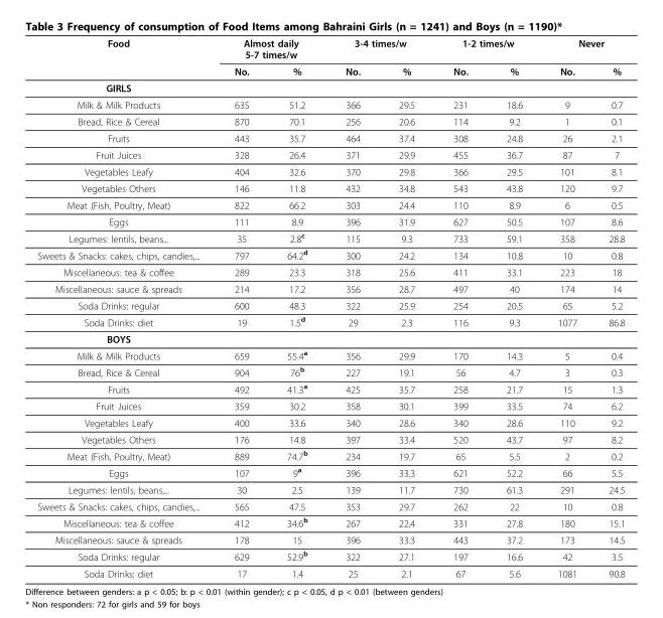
<table><thead><tr><td rowspan="2">Food</td><td colspan="2">Almost daily 5-7 times/w</td><td colspan="2">3-4 times/w</td><td colspan="2">1-2 times/w</td><td colspan="2">Never</td></tr><tr><td>No.</td><td>%</td><td>No.</td><td>%</td><td>No.</td><td>%</td><td>No.</td><td>%</td></tr></thead><tbody><tr><td colspan="9">GIRLS</td></tr><tr><td>Milk &amp; Milk Products</td><td>635</td><td>51.2</td><td>366</td><td>29.5</td><td>231</td><td>18.6</td><td>9</td><td>0.7</td></tr><tr><td>Bread, Rice &amp; Cereal</td><td>870</td><td>70.1</td><td>256</td><td>20.6</td><td>114</td><td>9.2</td><td>1</td><td>0.1</td></tr><tr><td>Fruits</td><td>443</td><td>35.7</td><td>464</td><td>37.4</td><td>308</td><td>24.8</td><td>26</td><td>2.1</td></tr><tr><td>Fruit Juices</td><td>328</td><td>26.4</td><td>371</td><td>29.9</td><td>455</td><td>36.7</td><td>87</td><td>7</td></tr><tr><td>Vegetables Leafy</td><td>404</td><td>32.6</td><td>370</td><td>29.8</td><td>366</td><td>29.5</td><td>101</td><td>8.1</td></tr><tr><td>Vegetables Others</td><td>146</td><td>11.8</td><td>432</td><td>34.8</td><td>543</td><td>43.8</td><td>120</td><td>9.7</td></tr><tr><td>Meat (Fish, Poultry, Meat)</td><td>822</td><td>66.2</td><td>303</td><td>24.4</td><td>110</td><td>8.9</td><td>6</td><td>0.5</td></tr><tr><td>Eggs</td><td>111</td><td>8.9</td><td>396</td><td>31.9</td><td>627</td><td>50.5</td><td>107</td><td>8.6</td></tr><tr><td>Legumes: lentils, beans...</td><td>35</td><td>2.8<sup>c</sup></td><td>115</td><td>9.3</td><td>733</td><td>59.1</td><td>358</td><td>28.8</td></tr><tr><td>Sweets &amp; Snacks: cakes, chips, candies,...</td><td>797</td><td>64.2<sup>d</sup></td><td>300</td><td>24.2</td><td>134</td><td>10.8</td><td>10</td><td>0.8</td></tr><tr><td>Miscellaneous: tea &amp; coffee</td><td>289</td><td>23.3</td><td>318</td><td>25.6</td><td>411</td><td>33.1</td><td>223</td><td>18</td></tr><tr><td>Miscellaneous: sauce &amp; spreads</td><td>214</td><td>17.2</td><td>356</td><td>28.7</td><td>497</td><td>40</td><td>174</td><td>14</td></tr><tr><td>Soda Drinks: regular</td><td>600</td><td>48.3</td><td>322</td><td>25.9</td><td>254</td><td>20.5</td><td>65</td><td>5.2</td></tr><tr><td>Soda Drinks: diet</td><td>19</td><td>1.5<sup>d</sup></td><td>29</td><td>2.3</td><td>116</td><td>9.3</td><td>1077</td><td>86.8</td></tr><tr><td colspan="9">BOYS</td></tr><tr><td>Milk &amp; Milk Products</td><td>659</td><td>55.4<sup>a</sup></td><td>356</td><td>29.9</td><td>170</td><td>14.3</td><td>5</td><td>0.4</td></tr><tr><td>Bread, Rice &amp; Cereal</td><td>904</td><td>76<sup>b</sup></td><td>227</td><td>19.1</td><td>56</td><td>4.7</td><td>3</td><td>0.3</td></tr><tr><td>Fruits</td><td>492</td><td>41.3<sup>a</sup></td><td>425</td><td>35.7</td><td>258</td><td>21.7</td><td>15</td><td>1.3</td></tr><tr><td>Fruit Juices</td><td>359</td><td>30.2</td><td>358</td><td>30.1</td><td>399</td><td>33.5</td><td>74</td><td>6.2</td></tr><tr><td>Vegetables Leafy</td><td>400</td><td>33.6</td><td>340</td><td>28.6</td><td>340</td><td>28.6</td><td>110</td><td>9.2</td></tr><tr><td>Vegetables Others</td><td>176</td><td>14.8</td><td>397</td><td>33.4</td><td>520</td><td>43.7</td><td>97</td><td>8.2</td></tr><tr><td>Meat (Fish, Poultry, Meat)</td><td>889</td><td>74.7<sup>b</sup></td><td>234</td><td>19.7</td><td>65</td><td>5.5</td><td>2</td><td>0.2</td></tr><tr><td>Eggs</td><td>107</td><td>9<sup>a</sup></td><td>396</td><td>33.3</td><td>621</td><td>52.2</td><td>66</td><td>5.5</td></tr><tr><td>Legumes: lentils, beans,...</td><td>30</td><td>2.5</td><td>139</td><td>11.7</td><td>730</td><td>61.3</td><td>291</td><td>24.5</td></tr><tr><td>Sweets &amp; Snacks: cakes, chips, candies,...</td><td>565</td><td>47.5</td><td>353</td><td>29.7</td><td>262</td><td>22</td><td>10</td><td>0.8</td></tr><tr><td>Miscellaneous: tea &amp; coffee</td><td>412</td><td>34.6<sup>b</sup></td><td>267</td><td>22.4</td><td>331</td><td>27.8</td><td>180</td><td>15.1</td></tr><tr><td>Miscellaneous: sauce &amp; spreads</td><td>178</td><td>15</td><td>396</td><td>33.3</td><td>443</td><td>37.2</td><td>173</td><td>14.5</td></tr><tr><td>Soda Drinks: regular</td><td>629</td><td>52.9<sup>b</sup></td><td>322</td><td>27.1</td><td>197</td><td>16.6</td><td>42</td><td>3.5</td></tr><tr><td>Soda Drinks: diet</td><td>17</td><td>1.4</td><td>25</td><td>2.1</td><td>67</td><td>5.6</td><td>1081</td><td>90.8</td></tr></tbody></table>